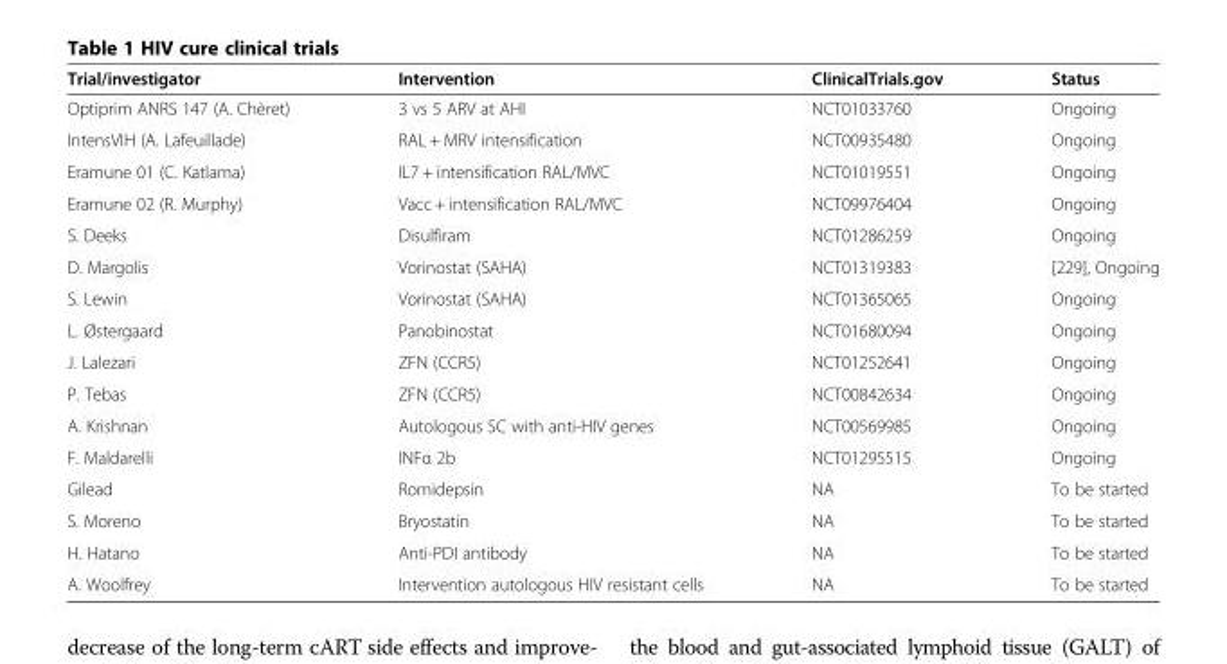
<table><thead><tr><td>Trial/investigator</td><td>Intervention</td><td>ClinicalTrials.gov</td><td>Status</td></tr></thead><tbody><tr><td>Optiprim ANRS 147 (A. Chèret)</td><td>3 vs 5 ARV at AHI</td><td>NCT01033760</td><td>Ongoing</td></tr><tr><td>IntensVIH (A. Lafeuillade)</td><td>RAL + MRV intensification</td><td>NCT00935480</td><td>Ongoing</td></tr><tr><td>Eramune 01 (C. Katlama)</td><td>IL7 + intensification RAL/MVC</td><td>NCT01019551</td><td>Ongoing</td></tr><tr><td>Eramune 02 (R. Murphy)</td><td>Vacc + intensification RAL/MVC</td><td>NCT09976404</td><td>Ongoing</td></tr><tr><td>S. Deeks</td><td>Disulfiram</td><td>NCT01286259</td><td>Ongoing</td></tr><tr><td>D. Margolis</td><td>Vorinostat (SAHA)</td><td>NCT01319383</td><td>[229], Ongoing</td></tr><tr><td>S. Lewin</td><td>Vorinostat (SAHA)</td><td>NCT01365065</td><td>Ongoing</td></tr><tr><td>L. Østergaard</td><td>Panobinostat</td><td>NCT01680094</td><td>Ongoing</td></tr><tr><td>J. Lalezari</td><td>ZFN (CCR5)</td><td>NCT01252641</td><td>Ongoing</td></tr><tr><td>P. Tebas</td><td>ZFN (CCR5)</td><td>NCT00842634</td><td>Ongoing</td></tr><tr><td>A. Krishnan</td><td>Autologous SC with anti-HIV genes</td><td>NCT00569985</td><td>Ongoing</td></tr><tr><td>F. Maldarelli</td><td>INFα 2b</td><td>NCT01295515</td><td>Ongoing</td></tr><tr><td>Gilead</td><td>Romidepsin</td><td>NA</td><td>To be started</td></tr><tr><td>S. Moreno</td><td>Bryostatin</td><td>NA</td><td>To be started</td></tr><tr><td>H. Hatano</td><td>Anti-PDI antibody</td><td>NA</td><td>To be started</td></tr><tr><td>A. Woolfrey</td><td>Intervention autologous HIV resistant cells</td><td>NA</td><td>To be started</td></tr></tbody></table>